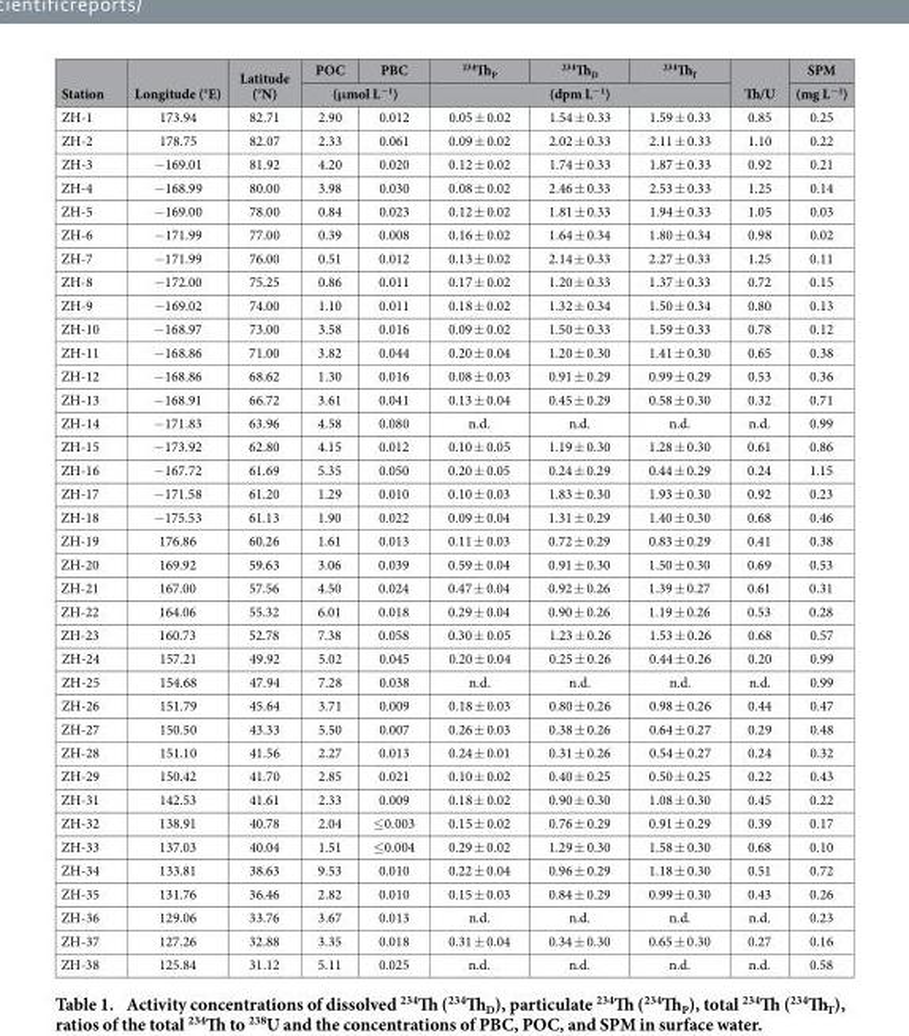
<table><thead><tr><td rowspan="2">Station</td><td rowspan="2">Longitude (°E)</td><td rowspan="2">Latitude (°N)</td><td>POC</td><td>PBC</td><td><sup>234</sup>Th<sub>P</sub></td><td><sup>234</sup>Th<sub>D</sub></td><td><sup>234</sup>Th<sub>T</sub></td><td rowspan="2">Th/U</td><td rowspan="2">SPM (mg L<sup>−1</sup>)</td></tr><tr><td colspan="2">(μmol L<sup>−1</sup>)</td><td colspan="3">(dpm L<sup>−1</sup>)</td></tr></thead><tbody><tr><td>ZH-1</td><td>173.94</td><td>82.71</td><td>2.90</td><td>0.012</td><td>0.05 ± 0.02</td><td>1.54 ± 0.33</td><td>1.59 ± 0.33</td><td>0.85</td><td>0.25</td></tr><tr><td>ZH-2</td><td>178.75</td><td>82.07</td><td>2.33</td><td>0.061</td><td>0.09 ± 0.02</td><td>2.02 ± 0.33</td><td>2.11 ± 0.33</td><td>1.10</td><td>0.22</td></tr><tr><td>ZH-3</td><td>− 169.01</td><td>81.92</td><td>4.20</td><td>0.020</td><td>0.12 ± 0.02</td><td>1.74 ± 0.33</td><td>1.87 ± 0.33</td><td>0.92</td><td>0.21</td></tr><tr><td>ZH-4</td><td>− 168.99</td><td>80.00</td><td>3.98</td><td>0.030</td><td>0.08 ± 0.02</td><td>2.46 ± 0.33</td><td>2.53 ± 0.33</td><td>1.25</td><td>0.14</td></tr><tr><td>ZH-5</td><td>− 169.00</td><td>78.00</td><td>0.84</td><td>0.023</td><td>0.12 ± 0.02</td><td>1.81 ± 0.33</td><td>1.94 ± 0.33</td><td>1.05</td><td>0.03</td></tr><tr><td>ZH-6</td><td>− 171.99</td><td>77.00</td><td>0.39</td><td>0.008</td><td>0.16 ± 0.02</td><td>1.64 ± 0.34</td><td>1.80 ± 0.34</td><td>0.98</td><td>0.02</td></tr><tr><td>ZH-7</td><td>− 171.99</td><td>76.00</td><td>0.51</td><td>0.012</td><td>0.13 ± 0.02</td><td>2.14 ± 0.33</td><td>2.27 ± 0.33</td><td>1.25</td><td>0.11</td></tr><tr><td>ZH-8</td><td>− 172.00</td><td>75.25</td><td>0.86</td><td>0.011</td><td>0.17 ± 0.02</td><td>1.20 ± 0.33</td><td>1.37 ± 0.33</td><td>0.72</td><td>0.15</td></tr><tr><td>ZH-9</td><td>− 169.02</td><td>74.00</td><td>1.10</td><td>0.011</td><td>0.18 ± 0.02</td><td>1.32 ± 0.34</td><td>1.50 ± 0.34</td><td>0.80</td><td>0.13</td></tr><tr><td>ZH-10</td><td>− 168.97</td><td>73.00</td><td>3.58</td><td>0.016</td><td>0.09 ± 0.02</td><td>1.50 ± 0.33</td><td>1.59 ± 0.33</td><td>0.78</td><td>0.12</td></tr><tr><td>ZH-11</td><td>− 168.86</td><td>71.00</td><td>3.82</td><td>0.044</td><td>0.20 ± 0.04</td><td>1.20 ± 0.30</td><td>1.41 ± 0.30</td><td>0.65</td><td>0.38</td></tr><tr><td>ZH-12</td><td>− 168.86</td><td>68.62</td><td>1.30</td><td>0.016</td><td>0.08 ± 0.03</td><td>0.91 ± 0.29</td><td>0.99 ± 0.29</td><td>0.53</td><td>0.36</td></tr><tr><td>ZH-13</td><td>− 168.91</td><td>66.72</td><td>3.61</td><td>0.041</td><td>0.13 ± 0.04</td><td>0.45 ± 0.29</td><td>0.58 ± 0.30</td><td>0.32</td><td>0.71</td></tr><tr><td>ZH-14</td><td>− 171.83</td><td>63.96</td><td>4.58</td><td>0.080</td><td>n.d.</td><td>n.d.</td><td>n.d.</td><td>n.d.</td><td>0.99</td></tr><tr><td>ZH-15</td><td>− 173.92</td><td>62.80</td><td>4.15</td><td>0.012</td><td>0.10 ± 0.05</td><td>1.19 ± 0.30</td><td>1.28 ± 0.30</td><td>0.61</td><td>0.86</td></tr><tr><td>ZH-16</td><td>− 167.72</td><td>61.69</td><td>5.35</td><td>0.050</td><td>0.20 ± 0.05</td><td>0.24 ± 0.29</td><td>0.44 ± 0.29</td><td>0.24</td><td>1.15</td></tr><tr><td>ZH-17</td><td>− 171.58</td><td>61.20</td><td>1.29</td><td>0.010</td><td>0.10 ± 0.03</td><td>1.83 ± 0.30</td><td>1.93 ± 0.30</td><td>0.92</td><td>0.23</td></tr><tr><td>ZH-18</td><td>− 175.53</td><td>61.13</td><td>1.90</td><td>0.022</td><td>0.09 ± 0.04</td><td>1.31 ± 0.29</td><td>1.40 ± 0.30</td><td>0.68</td><td>0.46</td></tr><tr><td>ZH-19</td><td>176.86</td><td>60.26</td><td>1.61</td><td>0.013</td><td>0.11 ± 0.03</td><td>0.72 ± 0.29</td><td>0.83 ± 0.29</td><td>0.41</td><td>0.38</td></tr><tr><td>ZH-20</td><td>169.92</td><td>59.63</td><td>3.06</td><td>0.039</td><td>0.59 ± 0.04</td><td>0.91 ± 0.30</td><td>1.50 ± 0.30</td><td>0.69</td><td>0.53</td></tr><tr><td>ZH-21</td><td>167.00</td><td>57.56</td><td>4.50</td><td>0.024</td><td>0.47 ± 0.04</td><td>0.92 ± 0.26</td><td>1.39 ± 0.27</td><td>0.61</td><td>0.31</td></tr><tr><td>ZH-22</td><td>164.06</td><td>55.32</td><td>6.01</td><td>0.018</td><td>0.29 ± 0.04</td><td>0.90 ± 0.26</td><td>1.19 ± 0.26</td><td>0.53</td><td>0.28</td></tr><tr><td>ZH-23</td><td>160.73</td><td>52.78</td><td>7.38</td><td>0.058</td><td>0.30 ± 0.05</td><td>1.23 ± 0.26</td><td>1.53 ± 0.26</td><td>0.68</td><td>0.57</td></tr><tr><td>ZH-24</td><td>157.21</td><td>49.92</td><td>5.02</td><td>0.045</td><td>0.20 ± 0.04</td><td>0.25 ± 0.26</td><td>0.44 ± 0.26</td><td>0.20</td><td>0.99</td></tr><tr><td>ZH-25</td><td>154.68</td><td>47.94</td><td>7.28</td><td>0.038</td><td>n.d.</td><td>n.d.</td><td>n.d.</td><td>n.d.</td><td>0.99</td></tr><tr><td>ZH-26</td><td>151.79</td><td>45.64</td><td>3.71</td><td>0.009</td><td>0.18 ± 0.03</td><td>0.80 ± 0.26</td><td>0.98 ± 0.26</td><td>0.44</td><td>0.47</td></tr><tr><td>ZH-27</td><td>150.50</td><td>43.33</td><td>5.50</td><td>0.007</td><td>0.26 ± 0.03</td><td>0.38 ± 0.26</td><td>0.64 ± 0.27</td><td>0.29</td><td>0.48</td></tr><tr><td>ZH-28</td><td>151.10</td><td>41.56</td><td>2.27</td><td>0.013</td><td>0.24 ± 0.01</td><td>0.31 ± 0.26</td><td>0.54 ± 0.27</td><td>0.24</td><td>0.32</td></tr><tr><td>ZH-29</td><td>150.42</td><td>41.70</td><td>2.85</td><td>0.021</td><td>0.10 ± 0.02</td><td>0.40 ± 0.25</td><td>0.50 ± 0.25</td><td>0.22</td><td>0.43</td></tr><tr><td>ZH-31</td><td>142.53</td><td>41.61</td><td>2.33</td><td>0.009</td><td>0.18 ± 0.02</td><td>0.90 ± 0.30</td><td>1.08 ± 0.30</td><td>0.45</td><td>0.22</td></tr><tr><td>ZH-32</td><td>138.91</td><td>40.78</td><td>2.04</td><td>≤ 0.003</td><td>0.15 ± 0.02</td><td>0.76 ± 0.29</td><td>0.91 ± 0.29</td><td>0.39</td><td>0.17</td></tr><tr><td>ZH-33</td><td>137.03</td><td>40.04</td><td>1.51</td><td>≤ 0.004</td><td>0.29 ± 0.02</td><td>1.29 ± 0.30</td><td>1.58 ± 0.30</td><td>0.68</td><td>0.10</td></tr><tr><td>ZH-34</td><td>133.81</td><td>38.63</td><td>9.53</td><td>0.010</td><td>0.22 ± 0.04</td><td>0.96 ± 0.29</td><td>1.18 ± 0.30</td><td>0.51</td><td>0.72</td></tr><tr><td>ZH-35</td><td>131.76</td><td>36.46</td><td>2.82</td><td>0.010</td><td>0.15 ± 0.03</td><td>0.84 ± 0.29</td><td>0.99 ± 0.30</td><td>0.43</td><td>0.26</td></tr><tr><td>ZH-36</td><td>129.06</td><td>33.76</td><td>3.67</td><td>0.013</td><td>n.d.</td><td>n.d.</td><td>n.d.</td><td>n.d.</td><td>0.23</td></tr><tr><td>ZH-37</td><td>127.26</td><td>32.88</td><td>3.35</td><td>0.018</td><td>0.31 ± 0.04</td><td>0.34 ± 0.30</td><td>0.65 ± 0.30</td><td>0.27</td><td>0.16</td></tr><tr><td>ZH-38</td><td>125.84</td><td>31.12</td><td>5.11</td><td>0.025</td><td>n.d.</td><td>n.d.</td><td>n.d.</td><td>n.d.</td><td>0.58</td></tr></tbody></table>